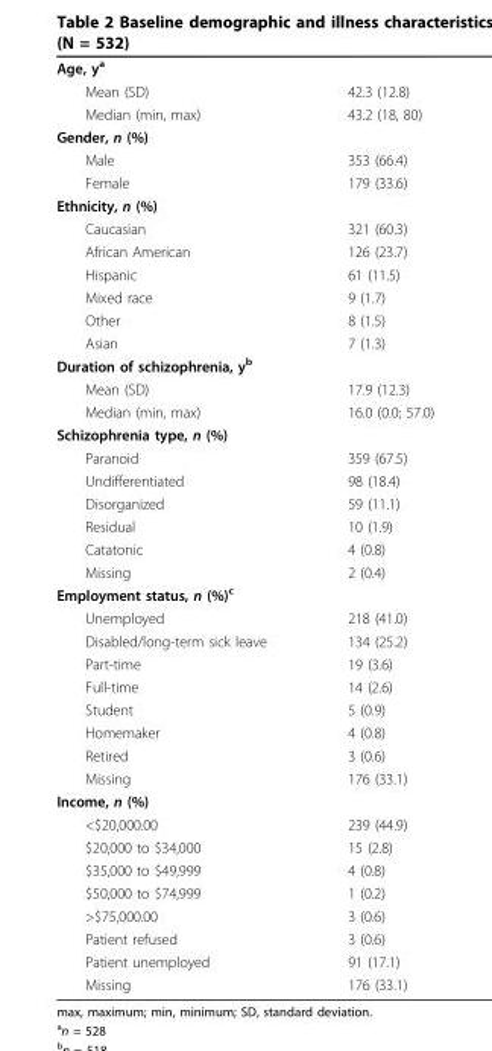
<table><tbody><tr><td colspan="2">Age, y<sup>a</sup></td></tr><tr><td>Mean (SD)</td><td>42.3 (12.8)</td></tr><tr><td>Median (min, max)</td><td>43.2 (18, 80)</td></tr><tr><td colspan="2">Gender, n (%)</td></tr><tr><td>Male</td><td>353 (66.4)</td></tr><tr><td>Female</td><td>179 (33.6)</td></tr><tr><td colspan="2">Ethnicity, n (%)</td></tr><tr><td>Caucasian</td><td>321 (60.3)</td></tr><tr><td>African American</td><td>126 (23.7)</td></tr><tr><td>Hispanic</td><td>61 (11.5)</td></tr><tr><td>Mixed race</td><td>9 (1.7)</td></tr><tr><td>Other</td><td>8 (1.5)</td></tr><tr><td>Asian</td><td>7 (1.3)</td></tr><tr><td colspan="2">Duration of schizophrenia, y<sup>b</sup></td></tr><tr><td>Mean (SD)</td><td>17.9 (12.3)</td></tr><tr><td>Median (min, max)</td><td>16.0 (0.0; 57.0)</td></tr><tr><td colspan="2">Schizophrenia type, n (%)</td></tr><tr><td>Paranoid</td><td>359 (67.5)</td></tr><tr><td>Undifferentiated</td><td>98 (18.4)</td></tr><tr><td>Disorganized</td><td>59 (11.1)</td></tr><tr><td>Residual</td><td>10 (1.9)</td></tr><tr><td>Catatonic</td><td>4 (0.8)</td></tr><tr><td>Missing</td><td>2 (0.4)</td></tr><tr><td colspan="2">Employment status, n (%)<sup>c</sup></td></tr><tr><td>Unemployed</td><td>218 (41.0)</td></tr><tr><td>Disabled/long-term sick leave</td><td>134 (25.2)</td></tr><tr><td>Part-time</td><td>19 (3.6)</td></tr><tr><td>Full-time</td><td>14 (2.6)</td></tr><tr><td>Student</td><td>5 (0.9)</td></tr><tr><td>Homemaker</td><td>4 (0.8)</td></tr><tr><td>Retired</td><td>3 (0.6)</td></tr><tr><td>Missing</td><td>176 (33.1)</td></tr><tr><td colspan="2">Income, n (%)</td></tr><tr><td>&lt;$20,000.00</td><td>239 (44.9)</td></tr><tr><td>$20,000 to $34,000</td><td>15 (2.8)</td></tr><tr><td>$35,000 to $49,999</td><td>4 (0.8)</td></tr><tr><td>$50,000 to $74,999</td><td>1 (0.2)</td></tr><tr><td>&gt;$75,000.00</td><td>3 (0.6)</td></tr><tr><td>Patient refused</td><td>3 (0.6)</td></tr><tr><td>Patient unemployed</td><td>91 (17.1)</td></tr><tr><td>Missing</td><td>176 (33.1)</td></tr></tbody></table>